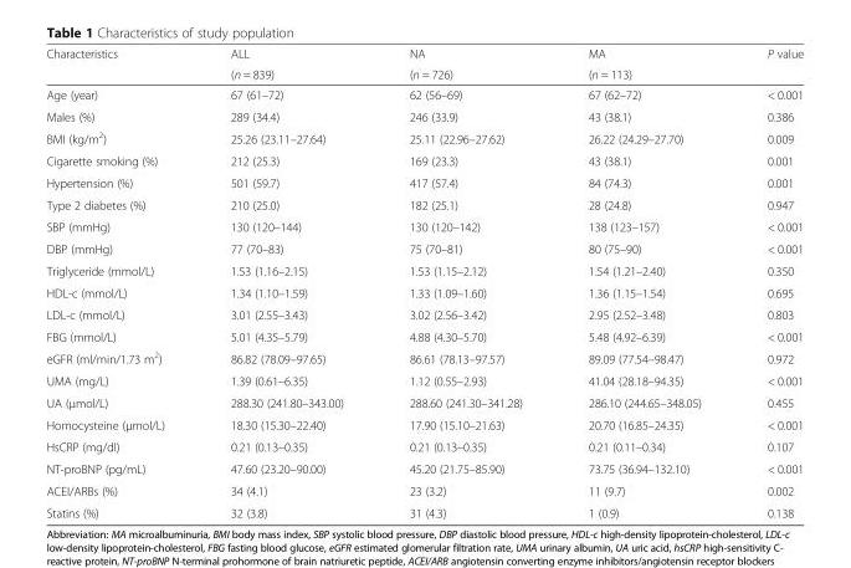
<table><thead><tr><td rowspan="2">Characteristics</td><td rowspan="2">ALL (n = 839)</td><td rowspan="2">NA (n = 726)</td><td rowspan="2">MA (n = 113)</td><td rowspan="2">P value</td></tr><tr></tr></thead><tbody><tr><td>Age (year)</td><td>67 (61–72)</td><td>62 (56–69)</td><td>67 (62–72)</td><td>&lt; 0.001</td></tr><tr><td>Males (%)</td><td>289 (34.4)</td><td>246 (33.9)</td><td>43 (38.1)</td><td>0.386</td></tr><tr><td>BMI (kg/m<sup>2</sup>)</td><td>25.26 (23.11–27.64)</td><td>25.11 (22.96–27.62)</td><td>26.22 (24.29–27.70)</td><td>0.009</td></tr><tr><td>Cigarette smoking (%)</td><td>212 (25.3)</td><td>169 (23.3)</td><td>43 (38.1)</td><td>0.001</td></tr><tr><td>Hypertension (%)</td><td>501 (59.7)</td><td>417 (57.4)</td><td>84 (74.3)</td><td>0.001</td></tr><tr><td>Type 2 diabetes (%)</td><td>210 (25.0)</td><td>182 (25.1)</td><td>28 (24.8)</td><td>0.947</td></tr><tr><td>SBP (mmHg)</td><td>130 (120–144)</td><td>130 (120–142)</td><td>138 (123–157)</td><td>&lt; 0.001</td></tr><tr><td>DBP (mmHg)</td><td>77 (70–83)</td><td>75 (70–81)</td><td>80 (75–90)</td><td>&lt; 0.001</td></tr><tr><td>Triglyceride (mmol/L)</td><td>1.53 (1.16–2.15)</td><td>1.53 (1.15–2.12)</td><td>1.54 (1.21–2.40)</td><td>0.350</td></tr><tr><td>HDL-c (mmol/L)</td><td>1.34 (1.10–1.59)</td><td>1.33 (1.09–1.60)</td><td>1.36 (1.15–1.54)</td><td>0.695</td></tr><tr><td>LDL-c (mmol/L)</td><td>3.01 (2.55–3.43)</td><td>3.02 (2.56–3.42)</td><td>2.95 (2.52–3.48)</td><td>0.803</td></tr><tr><td>FBG (mmol/L)</td><td>5.01 (4.35–5.79)</td><td>4.88 (4.30–5.70)</td><td>5.48 (4.92–6.39)</td><td>&lt; 0.001</td></tr><tr><td>eGFR (ml/min/1.73 m<sup>2</sup>)</td><td>86.82 (78.09–97.65)</td><td>86.61 (78.13–97.57)</td><td>89.09 (77.54–98.47)</td><td>0.972</td></tr><tr><td>UMA (mg/L)</td><td>1.39 (0.61–6.35)</td><td>1.12 (0.55–2.93)</td><td>41.04 (28.18–94.35)</td><td>&lt; 0.001</td></tr><tr><td>UA (μmol/L)</td><td>288.30 (241.80–343.00)</td><td>288.60 (241.30–341.28)</td><td>286.10 (244.65–348.05)</td><td>0.455</td></tr><tr><td>Homocysteine (μmol/L)</td><td>18.30 (15.30–22.40)</td><td>17.90 (15.10–21.63)</td><td>20.70 (16.85–24.35)</td><td>&lt; 0.001</td></tr><tr><td>HsCRP (mg/dl)</td><td>0.21 (0.13–0.35)</td><td>0.21 (0.13–0.35)</td><td>0.21 (0.11–0.34)</td><td>0.107</td></tr><tr><td>NT-proBNP (pg/mL)</td><td>47.60 (23.20–90.00)</td><td>45.20 (21.75–85.90)</td><td>73.75 (36.94–132.10)</td><td>&lt; 0.001</td></tr><tr><td>ACEI/ARBs (%)</td><td>34 (4.1)</td><td>23 (3.2)</td><td>11 (9.7)</td><td>0.002</td></tr><tr><td>Statins (%)</td><td>32 (3.8)</td><td>31 (4.3)</td><td>1 (0.9)</td><td>0.138</td></tr></tbody></table>